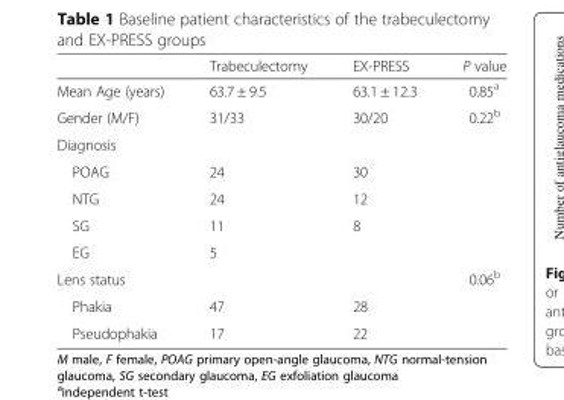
<table><thead><tr><td></td><td>Trabeculectomy</td><td>EX-PRESS</td><td>P value</td></tr></thead><tbody><tr><td>Mean Age (years)</td><td>63.7 ± 9.5</td><td>63.1 ± 12.3</td><td>0.85<sup>a</sup></td></tr><tr><td>Gender (M/F)</td><td>31/33</td><td>30/20</td><td>0.22<sup>b</sup></td></tr><tr><td colspan="4">Diagnosis</td></tr><tr><td>POAG</td><td>24</td><td>30</td><td></td></tr><tr><td>NTG</td><td>24</td><td>12</td><td></td></tr><tr><td>SG</td><td>11</td><td>8</td><td></td></tr><tr><td>EG</td><td>5</td><td></td><td></td></tr><tr><td>Lens status</td><td></td><td></td><td>0.06<sup>b</sup></td></tr><tr><td>Phakia</td><td>47</td><td>28</td><td></td></tr><tr><td>Pseudophakia</td><td>17</td><td>22</td><td></td></tr></tbody></table>